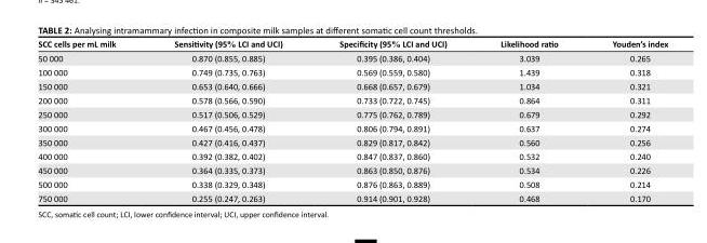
<table><thead><tr><td>SCC cells per mL milk</td><td>Sensitivity (95% LCI and UCI)</td><td>Specificity (95% LCI and UCI)</td><td>Likelihood ratio</td><td>Youden’s index</td></tr></thead><tbody><tr><td>50 000</td><td>0.870 (0.855, 0.885)</td><td>0.395 (0.386, 0.404)</td><td>3.039</td><td>0.265</td></tr><tr><td>100 000</td><td>0.749 (0.735, 0.763)</td><td>0.569 (0.559, 0.580)</td><td>1.439</td><td>0.318</td></tr><tr><td>150 000</td><td>0.653 (0.640, 0.666)</td><td>0.668 (0.657, 0.679)</td><td>1.034</td><td>0.321</td></tr><tr><td>200 000</td><td>0.578 (0.566, 0.590)</td><td>0.733 (0.722, 0.745)</td><td>0.864</td><td>0.311</td></tr><tr><td>250 000</td><td>0.517 (0.506, 0.529)</td><td>0.775 (0.762, 0.789)</td><td>0.679</td><td>0.292</td></tr><tr><td>300 000</td><td>0.467 (0.456, 0.478)</td><td>0.806 (0.794, 0.891)</td><td>0.637</td><td>0.274</td></tr><tr><td>350 000</td><td>0.427 (0.416, 0.437)</td><td>0.829 (0.817, 0.842)</td><td>0.560</td><td>0.256</td></tr><tr><td>400 000</td><td>0.392 (0.382, 0.402)</td><td>0.847 (0.837, 0.860)</td><td>0.532</td><td>0.240</td></tr><tr><td>450 000</td><td>0.364 (0.335, 0.373)</td><td>0.863 (0.850, 0.876)</td><td>0.534</td><td>0.226</td></tr><tr><td>500 000</td><td>0.338 (0.329, 0.348)</td><td>0.876 (0.863, 0.889)</td><td>0.508</td><td>0.214</td></tr><tr><td>750 000</td><td>0.255 (0.247, 0.263)</td><td>0.914 (0.901, 0.928)</td><td>0.468</td><td>0.170</td></tr></tbody></table>